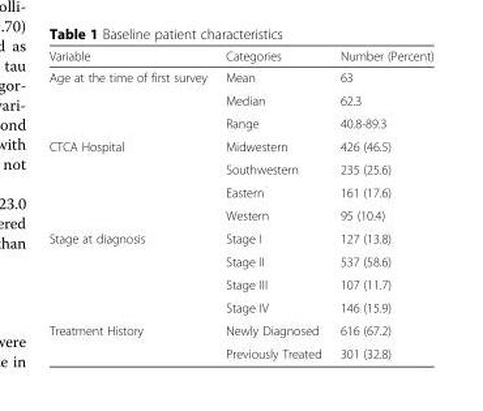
<table><thead><tr><td>Variable</td><td>Categories</td><td>Number (Percent)</td></tr></thead><tbody><tr><td rowspan="3">Age at the time of first survey</td><td>Mean</td><td>63</td></tr><tr><td>Median</td><td>62.3</td></tr><tr><td>Range</td><td>40.8-89.3</td></tr><tr><td rowspan="4">CTCA Hospital</td><td>Midwestern</td><td>426 (46.5)</td></tr><tr><td>Southwestern</td><td>235 (25.6)</td></tr><tr><td>Eastern</td><td>161 (17.6)</td></tr><tr><td>Western</td><td>95 (10.4)</td></tr><tr><td rowspan="4">Stage at diagnosis</td><td>Stage I</td><td>127 (13.8)</td></tr><tr><td>Stage II</td><td>537 (58.6)</td></tr><tr><td>Stage III</td><td>107 (11.7)</td></tr><tr><td>Stage IV</td><td>146 (15.9)</td></tr><tr><td rowspan="2">Treatment History</td><td>Newly Diagnosed</td><td>616 (67.2)</td></tr><tr><td>Previously Treated</td><td>301 (32.8)</td></tr></tbody></table>